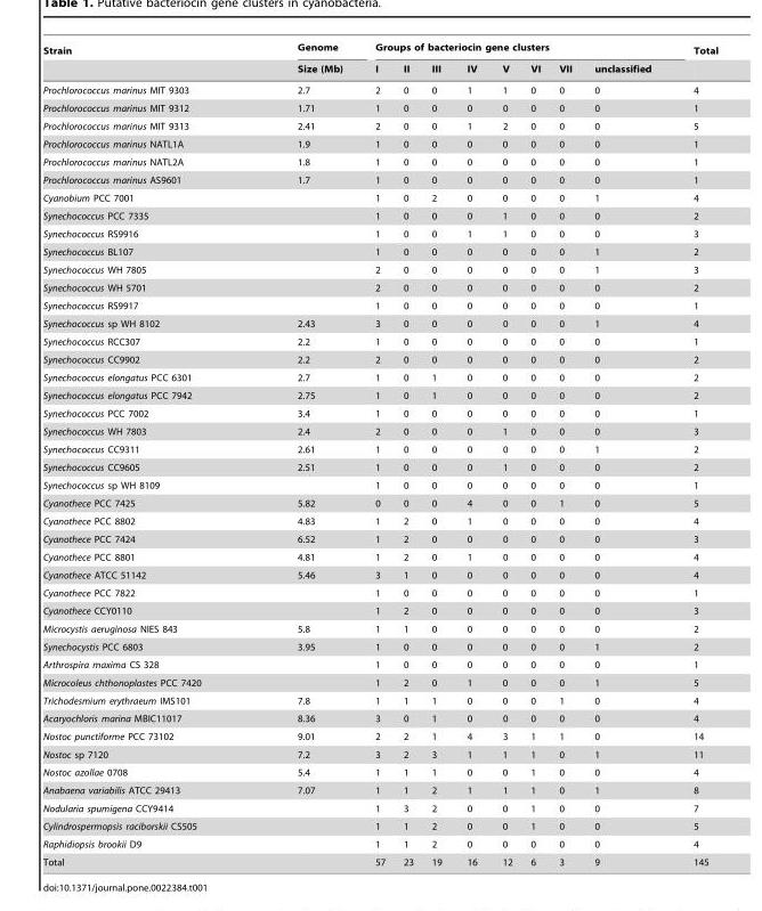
<table><thead><tr><td rowspan="2">Strain</td><td rowspan="2">Genome Size (Mb)</td><td colspan="8">Groups of bacteriocin gene clusters</td><td rowspan="2">Total</td></tr><tr><td>I</td><td>II</td><td>III</td><td>IV</td><td>V</td><td>VI</td><td>VII</td><td>unclassified</td></tr></thead><tbody><tr><td>Prochlorococcus marinus MIT 9303</td><td>2.7</td><td>2</td><td>0</td><td>0</td><td>1</td><td>1</td><td>0</td><td>0</td><td>0</td><td>4</td></tr><tr><td>Prochlorococcus marinus MIT 9312</td><td>1.71</td><td>1</td><td>0</td><td>0</td><td>0</td><td>0</td><td>0</td><td>0</td><td>0</td><td>1</td></tr><tr><td>Prochlorococcus marinus MIT 9313</td><td>2.41</td><td>2</td><td>0</td><td>0</td><td>1</td><td>2</td><td>0</td><td>0</td><td>0</td><td>5</td></tr><tr><td>Prochlorococcus marinus NATL1A</td><td>1.9</td><td>1</td><td>0</td><td>0</td><td>0</td><td>0</td><td>0</td><td>0</td><td>0</td><td>1</td></tr><tr><td>Prochlorococcus marinus NATL2A</td><td>1.8</td><td>1</td><td>0</td><td>0</td><td>0</td><td>0</td><td>0</td><td>0</td><td>0</td><td>1</td></tr><tr><td>Prochlorococcus marinus AS9601</td><td>1.7</td><td>1</td><td>0</td><td>0</td><td>0</td><td>0</td><td>0</td><td>0</td><td>0</td><td>1</td></tr><tr><td>Cyanobium PCC 7001</td><td></td><td>1</td><td>0</td><td>2</td><td>0</td><td>0</td><td>0</td><td>0</td><td>1</td><td>4</td></tr><tr><td>Synechococcus PCC 7335</td><td></td><td>1</td><td>0</td><td>0</td><td>0</td><td>1</td><td>0</td><td>0</td><td>0</td><td>2</td></tr><tr><td>Synechococcus RS9916</td><td></td><td>1</td><td>0</td><td>0</td><td>1</td><td>1</td><td>0</td><td>0</td><td>0</td><td>3</td></tr><tr><td>Synechococcus BL107</td><td></td><td>1</td><td>0</td><td>0</td><td>0</td><td>0</td><td>0</td><td>0</td><td>1</td><td>2</td></tr><tr><td>Synechococcus WH 7805</td><td></td><td>2</td><td>0</td><td>0</td><td>0</td><td>0</td><td>0</td><td>0</td><td>1</td><td>3</td></tr><tr><td>Synechococcus WH 5701</td><td></td><td>2</td><td>0</td><td>0</td><td>0</td><td>0</td><td>0</td><td>0</td><td>0</td><td>2</td></tr><tr><td>Synechococcus RS9917</td><td></td><td>1</td><td>0</td><td>0</td><td>0</td><td>0</td><td>0</td><td>0</td><td>0</td><td>1</td></tr><tr><td>Synechococcus sp WH 8102</td><td>2.43</td><td>3</td><td>0</td><td>0</td><td>0</td><td>0</td><td>0</td><td>0</td><td>1</td><td>4</td></tr><tr><td>Synechococcus RCC307</td><td>2.2</td><td>1</td><td>0</td><td>0</td><td>0</td><td>0</td><td>0</td><td>0</td><td>0</td><td>1</td></tr><tr><td>Synechococcus CC9902</td><td>2.2</td><td>2</td><td>0</td><td>0</td><td>0</td><td>0</td><td>0</td><td>0</td><td>0</td><td>2</td></tr><tr><td>Synechococcus elongatus PCC 6301</td><td>2.7</td><td>1</td><td>0</td><td>1</td><td>0</td><td>0</td><td>0</td><td>0</td><td>0</td><td>2</td></tr><tr><td>Synechococcus elongatus PCC 7942</td><td>2.75</td><td>1</td><td>0</td><td>1</td><td>0</td><td>0</td><td>0</td><td>0</td><td>0</td><td>2</td></tr><tr><td>Synechococcus PCC 7002</td><td>3.4</td><td>1</td><td>0</td><td>0</td><td>0</td><td>0</td><td>0</td><td>0</td><td>0</td><td>1</td></tr><tr><td>Synechococcus WH 7803</td><td>2.4</td><td>2</td><td>0</td><td>0</td><td>0</td><td>1</td><td>0</td><td>0</td><td>0</td><td>3</td></tr><tr><td>Synechococcus CC9311</td><td>2.61</td><td>1</td><td>0</td><td>0</td><td>0</td><td>0</td><td>0</td><td>0</td><td>1</td><td>2</td></tr><tr><td>Synechococcus CC9605</td><td>2.51</td><td>1</td><td>0</td><td>0</td><td>0</td><td>1</td><td>0</td><td>0</td><td>0</td><td>2</td></tr><tr><td>Synechococcus sp WH 8109</td><td></td><td>1</td><td>0</td><td>0</td><td>0</td><td>0</td><td>0</td><td>0</td><td>0</td><td>1</td></tr><tr><td>Cyanothece PCC 7425</td><td>5.82</td><td>0</td><td>0</td><td>0</td><td>4</td><td>0</td><td>0</td><td>1</td><td>0</td><td>5</td></tr><tr><td>Cyanothece PCC 8802</td><td>4.83</td><td>1</td><td>2</td><td>0</td><td>1</td><td>0</td><td>0</td><td>0</td><td>0</td><td>4</td></tr><tr><td>Cyanothece PCC 7424</td><td>6.52</td><td>1</td><td>2</td><td>0</td><td>0</td><td>0</td><td>0</td><td>0</td><td>0</td><td>3</td></tr><tr><td>Cyanothece PCC 8801</td><td>4.81</td><td>1</td><td>2</td><td>0</td><td>1</td><td>0</td><td>0</td><td>0</td><td>0</td><td>4</td></tr><tr><td>Cyanothece ATCC 51142</td><td>5.46</td><td>3</td><td>1</td><td>0</td><td>0</td><td>0</td><td>0</td><td>0</td><td>0</td><td>4</td></tr><tr><td>Cyanothece PCC 7822</td><td></td><td>1</td><td>0</td><td>0</td><td>0</td><td>0</td><td>0</td><td>0</td><td>0</td><td>1</td></tr><tr><td>Cyanothece CCY0110</td><td></td><td>1</td><td>2</td><td>0</td><td>0</td><td>0</td><td>0</td><td>0</td><td>0</td><td>3</td></tr><tr><td>Microcystis aeruginosa NIES 843</td><td>5.8</td><td>1</td><td>1</td><td>0</td><td>0</td><td>0</td><td>0</td><td>0</td><td>0</td><td>2</td></tr><tr><td>Synechocystis PCC 6803</td><td>3.95</td><td>1</td><td>0</td><td>0</td><td>0</td><td>0</td><td>0</td><td>0</td><td>1</td><td>2</td></tr><tr><td>Arthrospira maxima CS 328</td><td></td><td>1</td><td>0</td><td>0</td><td>0</td><td>0</td><td>0</td><td>0</td><td>0</td><td>1</td></tr><tr><td>Microcoleus chthonoplastes PCC 7420</td><td></td><td>1</td><td>2</td><td>0</td><td>1</td><td>0</td><td>0</td><td>0</td><td>1</td><td>5</td></tr><tr><td>Trichodesmium erythraeum IMS101</td><td>7.8</td><td>1</td><td>1</td><td>1</td><td>0</td><td>0</td><td>0</td><td>1</td><td>0</td><td>4</td></tr><tr><td>Acaryochloris marina MBIC11017</td><td>8.36</td><td>3</td><td>0</td><td>1</td><td>0</td><td>0</td><td>0</td><td>0</td><td>0</td><td>4</td></tr><tr><td>Nostoc punctiforme PCC 73102</td><td>9.01</td><td>2</td><td>2</td><td>1</td><td>4</td><td>3</td><td>1</td><td>1</td><td>0</td><td>14</td></tr><tr><td>Nostoc sp 7120</td><td>7.2</td><td>3</td><td>2</td><td>3</td><td>1</td><td>1</td><td>1</td><td>0</td><td>1</td><td>11</td></tr><tr><td>Nostoc azollae 0708</td><td>5.4</td><td>1</td><td>1</td><td>1</td><td>0</td><td>0</td><td>1</td><td>0</td><td>0</td><td>4</td></tr><tr><td>Anabaena variabilis ATCC 29413</td><td>7.07</td><td>1</td><td>1</td><td>2</td><td>1</td><td>1</td><td>1</td><td>0</td><td>1</td><td>8</td></tr><tr><td>Nodularia spumigena CCY9414</td><td></td><td>1</td><td>3</td><td>2</td><td>0</td><td>0</td><td>1</td><td>0</td><td>0</td><td>7</td></tr><tr><td>Cylindrospermopsis raciborskii CS505</td><td></td><td>1</td><td>1</td><td>2</td><td>0</td><td>0</td><td>1</td><td>0</td><td>0</td><td>5</td></tr><tr><td>Raphidiopsis brookii D9</td><td></td><td>1</td><td>1</td><td>2</td><td>0</td><td>0</td><td>0</td><td>0</td><td>0</td><td>4</td></tr><tr><td>Total</td><td></td><td>57</td><td>23</td><td>19</td><td>16</td><td>12</td><td>6</td><td>3</td><td>9</td><td>145</td></tr></tbody></table>